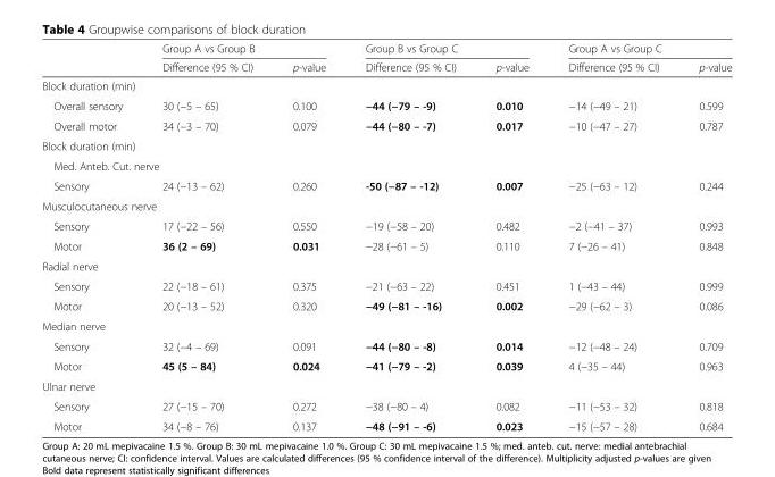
<table><thead><tr><td rowspan="2"></td><td colspan="2">Group A vs Group B</td><td colspan="2">Group B vs Group C</td><td colspan="2">Group A vs Group C</td></tr><tr><td>Difference (95 % CI)</td><td>p-value</td><td>Difference (95 % CI)</td><td>p-value</td><td>Difference (95 % CI)</td><td>p-value</td></tr></thead><tbody><tr><td colspan="7">Block duration (min)</td></tr><tr><td>Overall sensory</td><td>30 (−5 – 65)</td><td>0.100</td><td>−44 (−79 – -9)</td><td>0.010</td><td>−14 (−49 – 21)</td><td>0.599</td></tr><tr><td>Overall motor</td><td>34 (−3 – 70)</td><td>0.079</td><td>−44 (−80 – -7)</td><td>0.017</td><td>−10 (−47 – 27)</td><td>0.787</td></tr><tr><td colspan="7">Block duration (min)</td></tr><tr><td colspan="7">Med. Anteb. Cut. nerve</td></tr><tr><td>Sensory</td><td>24 (−13 – 62)</td><td>0.260</td><td>-50 (−87 – -12)</td><td>0.007</td><td>−25 (−63 – 12)</td><td>0.244</td></tr><tr><td colspan="7">Musculocutaneous nerve</td></tr><tr><td>Sensory</td><td>17 (−22 – 56)</td><td>0.550</td><td>−19 (−58 – 20)</td><td>0.482</td><td>−2 (−41 – 37)</td><td>0.993</td></tr><tr><td>Motor</td><td>36 (2 – 69)</td><td>0.031</td><td>−28 (−61 – 5)</td><td>0.110</td><td>7 (−26 – 41)</td><td>0.848</td></tr><tr><td colspan="7">Radial nerve</td></tr><tr><td>Sensory</td><td>22 (−18 – 61)</td><td>0.375</td><td>−21 (−63 – 22)</td><td>0.451</td><td>1 (−43 – 44)</td><td>0.999</td></tr><tr><td>Motor</td><td>20 (−13 – 52)</td><td>0.320</td><td>−49 (−81 – -16)</td><td>0.002</td><td>−29 (−62 – 3)</td><td>0.086</td></tr><tr><td colspan="7">Median nerve</td></tr><tr><td>Sensory</td><td>32 (−4 – 69)</td><td>0.091</td><td>−44 (−80 – -8)</td><td>0.014</td><td>−12 (−48 – 24)</td><td>0.709</td></tr><tr><td>Motor</td><td>45 (5 – 84)</td><td>0.024</td><td>−41 (−79 – -2)</td><td>0.039</td><td>4 (−35 – 44)</td><td>0.963</td></tr><tr><td colspan="7">Ulnar nerve</td></tr><tr><td>Sensory</td><td>27 (−15 – 70)</td><td>0.272</td><td>−38 (−80 – 4)</td><td>0.082</td><td>−11 (−53 – 32)</td><td>0.818</td></tr><tr><td>Motor</td><td>34 (−8 – 76)</td><td>0.137</td><td>−48 (−91 – -6)</td><td>0.023</td><td>−15 (−57 – 28)</td><td>0.684</td></tr></tbody></table>